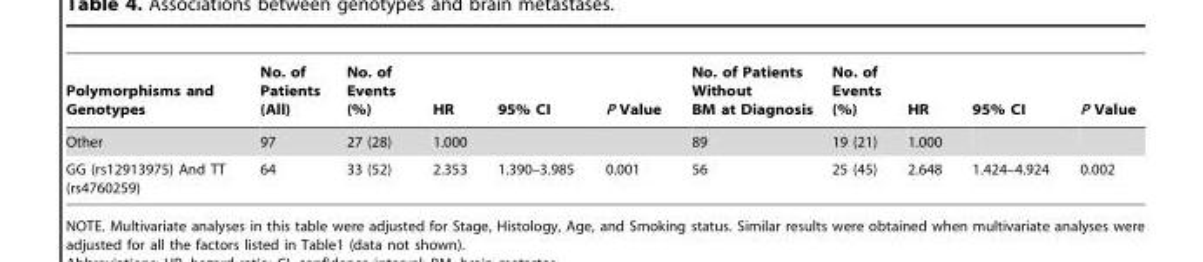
<table><thead><tr><td>Polymorphisms and Genotypes</td><td>No. of Patients (All)</td><td>No. of Events (%)</td><td>HR</td><td>95% CI</td><td>P Value</td><td>No. of Patients Without BM at Diagnosis</td><td>No. of Events (%)</td><td>HR</td><td>95% CI</td><td>P Value</td></tr></thead><tbody><tr><td>Other</td><td>97</td><td>27 (28)</td><td>1.000</td><td></td><td></td><td>89</td><td>19 (21)</td><td>1.000</td><td></td><td></td></tr><tr><td>GG (rs12913975) And TT (rs4760259)</td><td>64</td><td>33 (52)</td><td>2.353</td><td>1.390–3.985</td><td>0.001</td><td>56</td><td>25 (45)</td><td>2.648</td><td>1.424–4.924</td><td>0.002</td></tr></tbody></table>